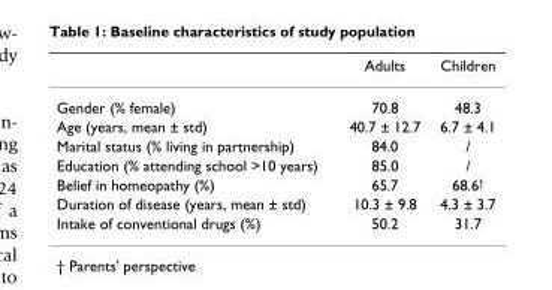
<table><thead><tr><td></td><td>Adults</td><td>Children</td></tr></thead><tbody><tr><td>Gender (% female)</td><td>70.8</td><td>48.3</td></tr><tr><td>Age (years, mean ± std)</td><td>40.7 ± 12.7</td><td>6.7 ± 4.1</td></tr><tr><td>Marital status (% living in partnership)</td><td>84.0</td><td>/</td></tr><tr><td>Education (% attending school &gt;10 years)</td><td>85.0</td><td>/</td></tr><tr><td>Belief in homeopathy (%)</td><td>65.7</td><td>68.6<sup>†</sup></td></tr><tr><td>Duration of disease (years, mean ± std)</td><td>10.3 ± 9.8</td><td>4.3 ± 3.7</td></tr><tr><td>Intake of conventional drugs (%)</td><td>50.2</td><td>31.7</td></tr></tbody></table>